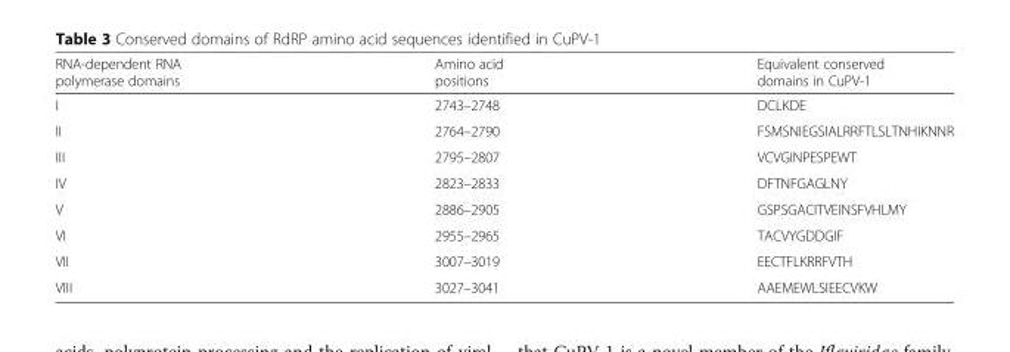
<table><thead><tr><td>RNA-dependent RNA polymerase domains</td><td>Amino acid positions</td><td>Equivalent conserved domains in CuPV-1</td></tr></thead><tbody><tr><td>I</td><td>2743–2748</td><td>DCLKDE</td></tr><tr><td>II</td><td>2764–2790</td><td>FSMSNIEGSIALRRFTLSLTNHIKNNR</td></tr><tr><td>III</td><td>2795–2807</td><td>VCVGINPESPEWT</td></tr><tr><td>IV</td><td>2823–2833</td><td>DFTNFGAGLNY</td></tr><tr><td>V</td><td>2886–2905</td><td>GSPSGACITVEINSFVHLMY</td></tr><tr><td>VI</td><td>2955–2965</td><td>TACVYGDDGIF</td></tr><tr><td>VII</td><td>3007–3019</td><td>EECTFLKRRFVTH</td></tr><tr><td>VIII</td><td>3027–3041</td><td>AAEMEWLSIEECVKW</td></tr></tbody></table>